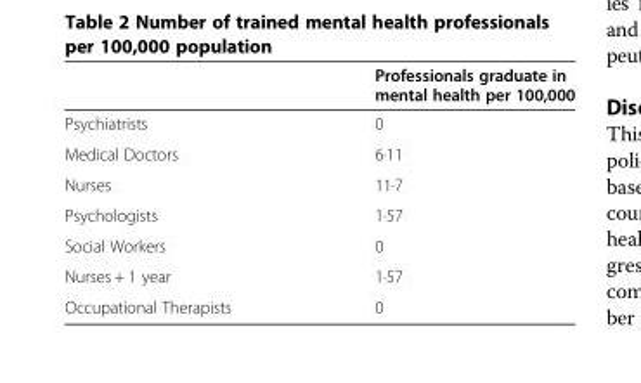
<table><thead><tr><td></td><td>Professionals graduate in mental health per 100,000</td></tr></thead><tbody><tr><td>Psychiatrists</td><td>0</td></tr><tr><td>Medical Doctors</td><td>6·11</td></tr><tr><td>Nurses</td><td>11·7</td></tr><tr><td>Psychologists</td><td>1·57</td></tr><tr><td>Social Workers</td><td>0</td></tr><tr><td>Nurses + 1 year</td><td>1·57</td></tr><tr><td>Occupational Therapists</td><td>0</td></tr></tbody></table>